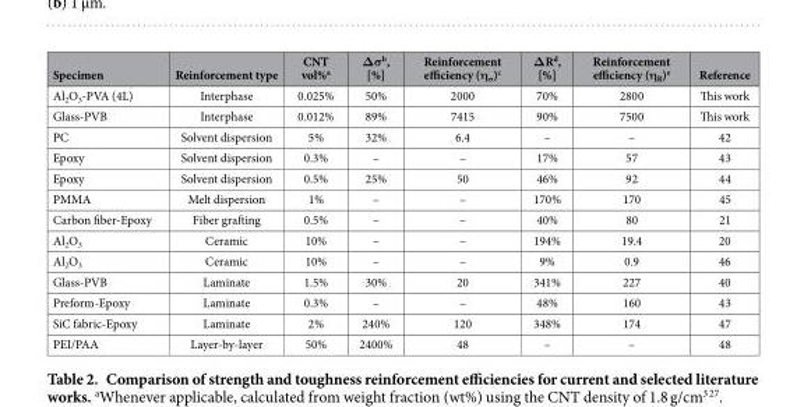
<table><thead><tr><td>Specimen</td><td>Reinforcement type</td><td>CNT vol%<sup>a</sup></td><td>Δσ<sup>b</sup>, [%]</td><td>Reinforcement efficiency (η<sub>σ</sub>)<sup>c</sup></td><td>ΔR<sup>d</sup>, [%]</td><td>Reinforcement efficiency (η<sub>R</sub>)<sup>e</sup></td><td>Reference</td></tr></thead><tbody><tr><td>Al<sub>2</sub>O<sub>3</sub>-PVA (4L)</td><td>Interphase</td><td>0.025%</td><td>50%</td><td>2000</td><td>70%</td><td>2800</td><td>This work</td></tr><tr><td>Glass-PVB</td><td>Interphase</td><td>0.012%</td><td>89%</td><td>7415</td><td>90%</td><td>7500</td><td>This work</td></tr><tr><td>PC</td><td>Solvent dispersion</td><td>5%</td><td>32%</td><td>6.4</td><td>–</td><td>–</td><td>42</td></tr><tr><td>Epoxy</td><td>Solvent dispersion</td><td>0.3%</td><td>–</td><td>–</td><td>17%</td><td>57</td><td>43</td></tr><tr><td>Epoxy</td><td>Solvent dispersion</td><td>0.5%</td><td>25%</td><td>50</td><td>46%</td><td>92</td><td>44</td></tr><tr><td>PMMA</td><td>Melt dispersion</td><td>1%</td><td>–</td><td>–</td><td>170%</td><td>170</td><td>45</td></tr><tr><td>Carbon fiber-Epoxy</td><td>Fiber grafting</td><td>0.5%</td><td>–</td><td>–</td><td>40%</td><td>80</td><td>21</td></tr><tr><td>Al<sub>2</sub>O<sub>3</sub></td><td>Ceramic</td><td>10%</td><td>–</td><td>–</td><td>194%</td><td>19.4</td><td>20</td></tr><tr><td>Al<sub>2</sub>O<sub>3</sub></td><td>Ceramic</td><td>10%</td><td>–</td><td>–</td><td>9%</td><td>0.9</td><td>46</td></tr><tr><td>Glass-PVB</td><td>Laminate</td><td>1.5%</td><td>30%</td><td>20</td><td>341%</td><td>227</td><td>40</td></tr><tr><td>Preform-Epoxy</td><td>Laminate</td><td>0.3%</td><td>–</td><td>–</td><td>48%</td><td>160</td><td>43</td></tr><tr><td>SiC fabric-Epoxy</td><td>Laminate</td><td>2%</td><td>240%</td><td>120</td><td>348%</td><td>174</td><td>47</td></tr><tr><td>PEI/PAA</td><td>Layer-by-layer</td><td>50%</td><td>2400%</td><td>48</td><td>–</td><td>–</td><td>48</td></tr></tbody></table>